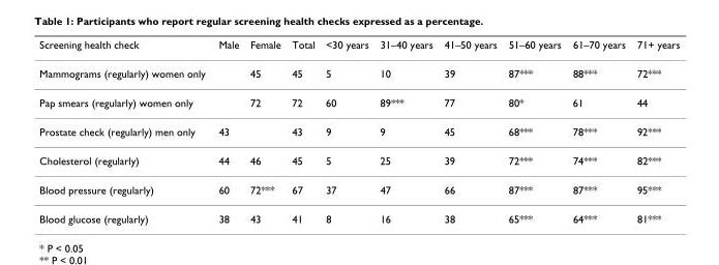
<table><thead><tr><td>Screening health check</td><td>Male</td><td>Female</td><td>Total</td><td>&lt;30 years</td><td>31–40 years</td><td>41–50 years</td><td>51–60 years</td><td>61–70 years</td><td>71+ years</td></tr></thead><tbody><tr><td>Mammograms (regularly) women only</td><td></td><td>45</td><td>45</td><td>5</td><td>10</td><td>39</td><td>87***</td><td>88***</td><td>72***</td></tr><tr><td>Pap smears (regularly) women only</td><td></td><td>72</td><td>72</td><td>60</td><td>89***</td><td>77</td><td>80*</td><td>61</td><td>44</td></tr><tr><td>Prostate check (regularly) men only</td><td>43</td><td></td><td>43</td><td>9</td><td>9</td><td>45</td><td>68***</td><td>78***</td><td>92***</td></tr><tr><td>Cholesterol (regularly)</td><td>44</td><td>46</td><td>45</td><td>5</td><td>25</td><td>39</td><td>72***</td><td>74***</td><td>82***</td></tr><tr><td>Blood pressure (regularly)</td><td>60</td><td>72***</td><td>67</td><td>37</td><td>47</td><td>66</td><td>87***</td><td>87***</td><td>95***</td></tr><tr><td>Blood glucose (regularly)</td><td>38</td><td>43</td><td>41</td><td>8</td><td>16</td><td>38</td><td>65***</td><td>64***</td><td>81***</td></tr></tbody></table>